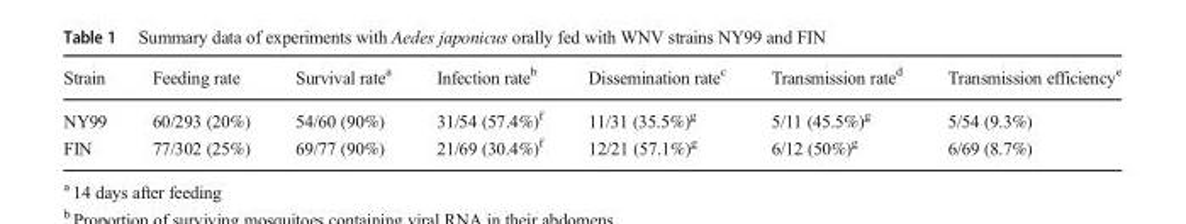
<table><thead><tr><td>Strain</td><td>Feeding rate</td><td>Survival rate<sup>a</sup></td><td>Infection rate<sup>b</sup></td><td>Dissemination rate<sup>c</sup></td><td>Transmission rate<sup>d</sup></td><td>Transmission efficiency<sup>e</sup></td></tr></thead><tbody><tr><td>NY99</td><td>60/293 (20%)</td><td>54/60 (90%)</td><td>31/54 (57.4%)<sup>f</sup></td><td>11/31 (35.5%)<sup>g</sup></td><td>5/11 (45.5%)<sup>g</sup></td><td>5/54 (9.3%)</td></tr><tr><td>FIN</td><td>77/302 (25%)</td><td>69/77 (90%)</td><td>21/69 (30.4%)<sup>f</sup></td><td>12/21 (57.1%)<sup>g</sup></td><td>6/12 (50%)<sup>g</sup></td><td>6/69 (8.7%)</td></tr></tbody></table>